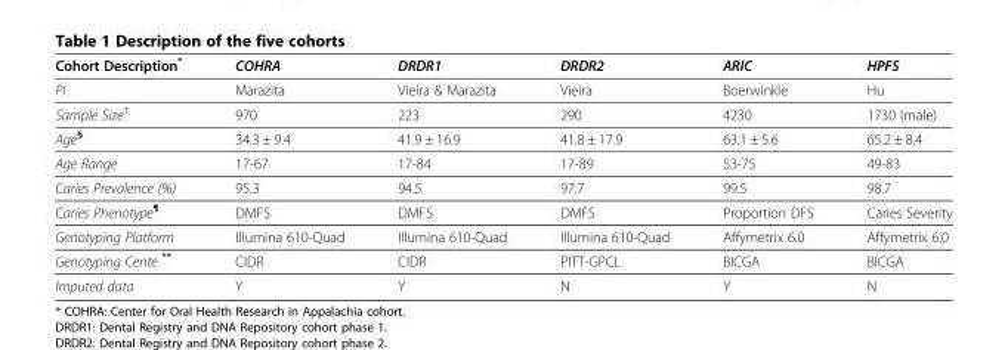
<table><thead><tr><td>Cohort Description*</td><td>COHRA</td><td>DRDR1</td><td>DRDR2</td><td>ARIC</td><td>HPFS</td></tr></thead><tbody><tr><td>PI</td><td>Marazita</td><td>Vieira &amp; Marazita</td><td>Vieira</td><td>Boerwinkle</td><td>Hu</td></tr><tr><td>Sample Size<sup>†</sup></td><td>970</td><td>223</td><td>290</td><td>4230</td><td>1730 (male)</td></tr><tr><td>Age<sup>§</sup></td><td>34.3 ± 9.4</td><td>41.9 ± 16.9</td><td>41.8 ± 17.9</td><td>63.1 ± 5.6</td><td>65.2 ± 8.4</td></tr><tr><td>Age Range</td><td>17-67</td><td>17-84</td><td>17-89</td><td>53-75</td><td>49-83</td></tr><tr><td>Caries Prevalence (%)</td><td>95.3</td><td>94.5</td><td>97.7</td><td>99.5</td><td>98.7</td></tr><tr><td>Caries Phenotype<sup>¶</sup></td><td>DMFS</td><td>DMFS</td><td>DMFS</td><td>Proportion DFS</td><td>Caries Severity</td></tr><tr><td>Genotyping Platform</td><td>Illumina 610-Quad</td><td>Illumina 610-Quad</td><td>Illumina 610-Quad</td><td>Affymetrix 6.0</td><td>Affymetrix 6.0</td></tr><tr><td>Genotyping Cente **</td><td>CIDR</td><td>CIDR</td><td>PITT-GPCL</td><td>BICGA</td><td>BICGA</td></tr><tr><td>Imputed data</td><td>Y</td><td>Y</td><td>N</td><td>Y</td><td>N</td></tr></tbody></table>